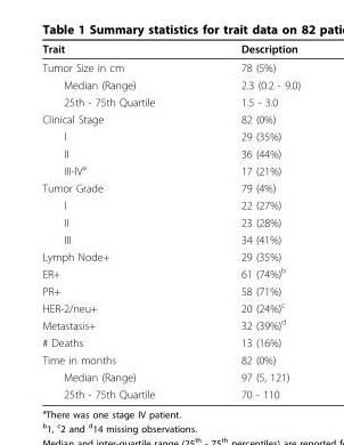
<table><thead><tr><td>Trait</td><td>Description</td></tr></thead><tbody><tr><td>Tumor Size in cm</td><td>78 (5%)</td></tr><tr><td>Median (Range)</td><td>2.3 (0.2 - 9.0)</td></tr><tr><td>25th - 75th Quartile</td><td>1.5 - 3.0</td></tr><tr><td>Clinical Stage</td><td>82 (0%)</td></tr><tr><td>I</td><td>29 (35%)</td></tr><tr><td>II</td><td>36 (44%)</td></tr><tr><td>III-IV<sup>a</sup></td><td>17 (21%)</td></tr><tr><td>Tumor Grade</td><td>79 (4%)</td></tr><tr><td>I</td><td>22 (27%)</td></tr><tr><td>II</td><td>23 (28%)</td></tr><tr><td>III</td><td>34 (41%)</td></tr><tr><td>Lymph Node+</td><td>29 (35%)</td></tr><tr><td>ER+</td><td>61 (74%)<sup>b</sup></td></tr><tr><td>PR+</td><td>58 (71%)</td></tr><tr><td>HER-2/neu+</td><td>20 (24%)<sup>c</sup></td></tr><tr><td>Metastasis+</td><td>32 (39%)<sup>d</sup></td></tr><tr><td># Deaths</td><td>13 (16%)</td></tr><tr><td>Time in months</td><td>82 (0%)</td></tr><tr><td>Median (Range)</td><td>97 (5, 121)</td></tr><tr><td>25th - 75th Quartile</td><td>70 - 110</td></tr></tbody></table>